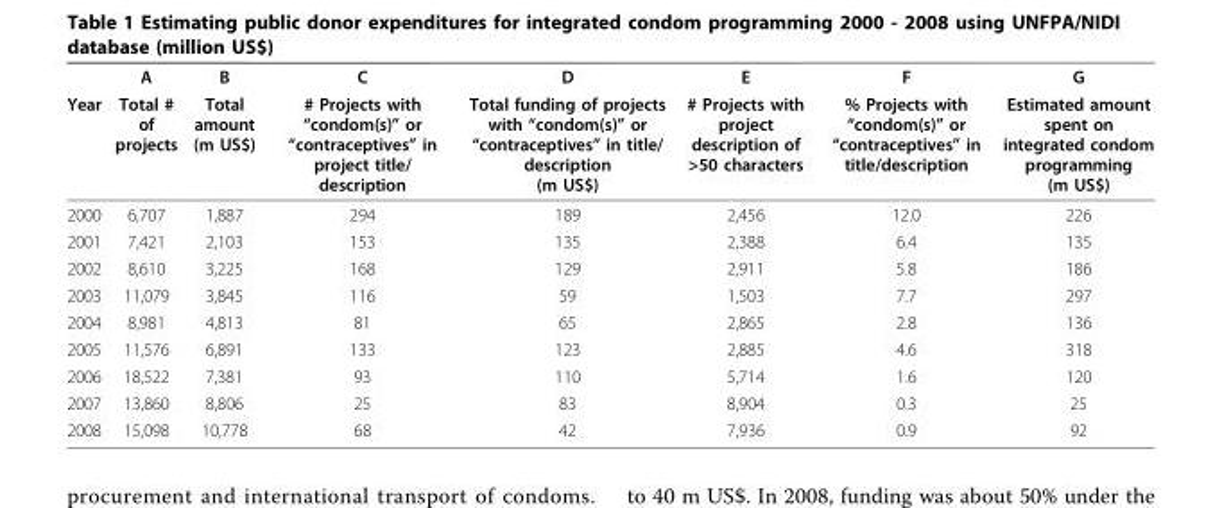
<table><thead><tr><td rowspan="2">Year</td><td rowspan="2">A Total # of projects</td><td rowspan="2">B Total amount (m US$)</td><td rowspan="2">C # Projects with “condom(s)” or “contraceptives” in project title/ description</td><td rowspan="2">D Total funding of projects with “condom(s)” or “contraceptives” in title/ description (m US$)</td><td rowspan="2">E # Projects with project description of &gt;50 characters</td><td rowspan="2">F % Projects with “condom(s)” or “contraceptives” in title/description</td><td rowspan="2">G Estimated amount spent on integrated condom programming (m US$)</td></tr><tr></tr></thead><tbody><tr><td>2000</td><td>6,707</td><td>1,887</td><td>294</td><td>189</td><td>2,456</td><td>12.0</td><td>226</td></tr><tr><td>2001</td><td>7,421</td><td>2,103</td><td>153</td><td>135</td><td>2,388</td><td>6.4</td><td>135</td></tr><tr><td>2002</td><td>8,610</td><td>3,225</td><td>168</td><td>129</td><td>2,911</td><td>5.8</td><td>186</td></tr><tr><td>2003</td><td>11,079</td><td>3,845</td><td>116</td><td>59</td><td>1,503</td><td>7.7</td><td>297</td></tr><tr><td>2004</td><td>8,981</td><td>4,813</td><td>81</td><td>65</td><td>2,865</td><td>2.8</td><td>136</td></tr><tr><td>2005</td><td>11,576</td><td>6,891</td><td>133</td><td>123</td><td>2,885</td><td>4.6</td><td>318</td></tr><tr><td>2006</td><td>18,522</td><td>7,381</td><td>93</td><td>110</td><td>5,714</td><td>1.6</td><td>120</td></tr><tr><td>2007</td><td>13,860</td><td>8,806</td><td>25</td><td>83</td><td>8,904</td><td>0.3</td><td>25</td></tr><tr><td>2008</td><td>15,098</td><td>10,778</td><td>68</td><td>42</td><td>7,936</td><td>0.9</td><td>92</td></tr></tbody></table>